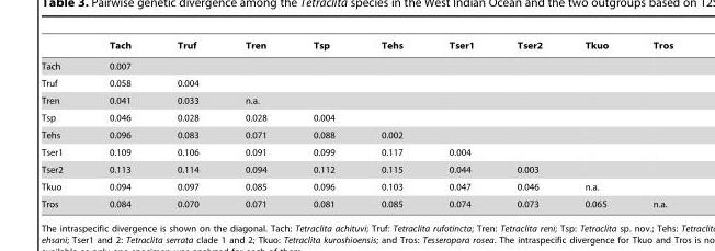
<table><thead><tr><td></td><td>Tach</td><td>Truf</td><td>Tren</td><td>Tsp</td><td>Tehs</td><td>Tser1</td><td>Tser2</td><td>Tkuo</td><td>Tros</td></tr></thead><tbody><tr><td>Tach</td><td>0.007</td><td></td><td></td><td></td><td></td><td></td><td></td><td></td><td></td></tr><tr><td>Truf</td><td>0.058</td><td>0.004</td><td></td><td></td><td></td><td></td><td></td><td></td><td></td></tr><tr><td>Tren</td><td>0.041</td><td>0.033</td><td>n.a.</td><td></td><td></td><td></td><td></td><td></td><td></td></tr><tr><td>Tsp</td><td>0.046</td><td>0.028</td><td>0.028</td><td>0.004</td><td></td><td></td><td></td><td></td><td></td></tr><tr><td>Tehs</td><td>0.096</td><td>0.083</td><td>0.071</td><td>0.088</td><td>0.002</td><td></td><td></td><td></td><td></td></tr><tr><td>Tser1</td><td>0.109</td><td>0.106</td><td>0.091</td><td>0.099</td><td>0.117</td><td>0.004</td><td></td><td></td><td></td></tr><tr><td>Tser2</td><td>0.113</td><td>0.114</td><td>0.094</td><td>0.112</td><td>0.115</td><td>0.044</td><td>0.003</td><td></td><td></td></tr><tr><td>Tkuo</td><td>0.094</td><td>0.097</td><td>0.085</td><td>0.096</td><td>0.103</td><td>0.047</td><td>0.046</td><td>n.a.</td><td></td></tr><tr><td>Tros</td><td>0.084</td><td>0.070</td><td>0.071</td><td>0.081</td><td>0.085</td><td>0.074</td><td>0.073</td><td>0.065</td><td>n.a.</td></tr></tbody></table>